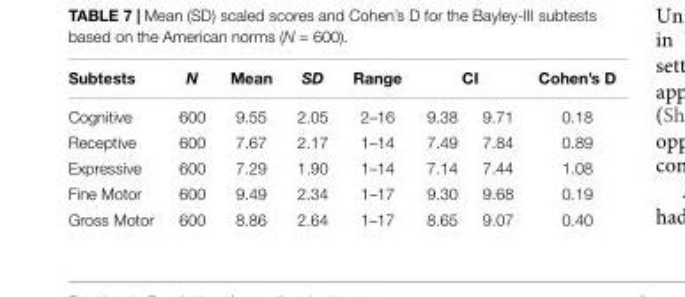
<table><thead><tr><td rowspan="2">Subtests Cognitive</td><td rowspan="2">N 600</td><td rowspan="2">Mean 9.55</td><td rowspan="2">SD 2.05</td><td rowspan="2">Range 2–16</td><td colspan="2">CI</td><td rowspan="2">Cohen’s D 0.18</td></tr><tr><td>9.38</td><td>9.71</td></tr></thead><tbody><tr><td>Receptive</td><td>600</td><td>7.67</td><td>2.17</td><td>1–14</td><td>7.49</td><td>7.84</td><td>0.89</td></tr><tr><td>Expressive</td><td>600</td><td>7.29</td><td>1.90</td><td>1–14</td><td>7.14</td><td>7.44</td><td>1.08</td></tr><tr><td>Fine Motor</td><td>600</td><td>9.49</td><td>2.34</td><td>1–17</td><td>9.30</td><td>9.68</td><td>0.19</td></tr><tr><td>Gross Motor</td><td>600</td><td>8.86</td><td>2.64</td><td>1–17</td><td>8.65</td><td>9.07</td><td>0.40</td></tr></tbody></table>